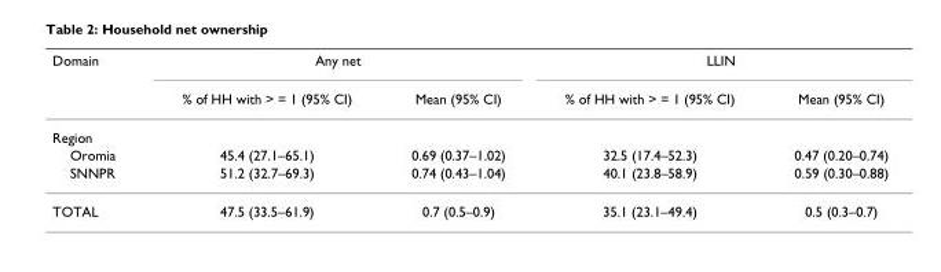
<table><thead><tr><td rowspan="2">Domain</td><td colspan="2">Any net</td><td colspan="2">LLIN</td></tr><tr><td>% of HH with &gt; = 1 (95% CI)</td><td>Mean (95% CI)</td><td>% of HH with &gt; = 1 (95% CI)</td><td>Mean (95% CI)</td></tr></thead><tbody><tr><td colspan="5">Region</td></tr><tr><td>Oromia</td><td>45.4 (27.1–65.1)</td><td>0.69 (0.37–1.02)</td><td>32.5 (17.4–52.3)</td><td>0.47 (0.20–0.74)</td></tr><tr><td>SNNPR</td><td>51.2 (32.7–69.3)</td><td>0.74 (0.43–1.04)</td><td>40.1 (23.8–58.9)</td><td>0.59 (0.30–0.88)</td></tr><tr><td>TOTAL</td><td>47.5 (33.5–61.9)</td><td>0.7 (0.5–0.9)</td><td>35.1 (23.1–49.4)</td><td>0.5 (0.3–0.7)</td></tr></tbody></table>